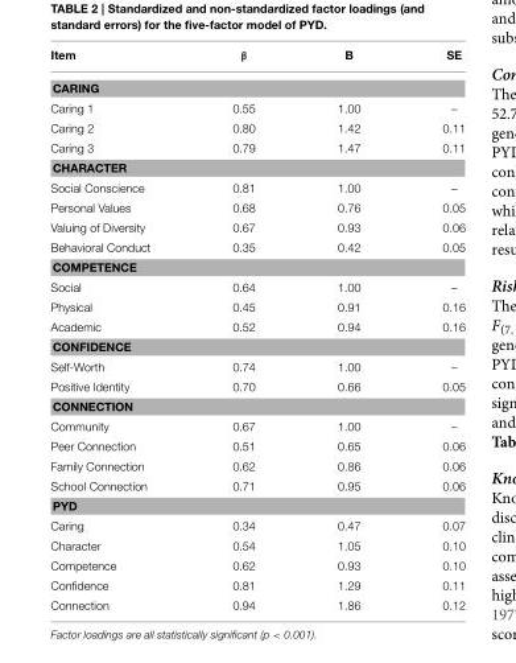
<table><thead><tr><td>Item</td><td>β</td><td>B</td><td>SE</td></tr></thead><tbody><tr><td colspan="4">CARING</td></tr><tr><td>Caring 1</td><td>0.55</td><td>1.00</td><td>–</td></tr><tr><td>Caring 2</td><td>0.80</td><td>1.42</td><td>0.11</td></tr><tr><td>Caring 3</td><td>0.79</td><td>1.47</td><td>0.11</td></tr><tr><td colspan="4">CHARACTER</td></tr><tr><td>Social Conscience</td><td>0.81</td><td>1.00</td><td>–</td></tr><tr><td>Personal Values</td><td>0.68</td><td>0.76</td><td>0.05</td></tr><tr><td>Valuing of Diversity</td><td>0.67</td><td>0.93</td><td>0.06</td></tr><tr><td>Behavioral Conduct</td><td>0.35</td><td>0.42</td><td>0.05</td></tr><tr><td colspan="4">COMPETENCE</td></tr><tr><td>Social</td><td>0.64</td><td>1.00</td><td>–</td></tr><tr><td>Physical</td><td>0.45</td><td>0.91</td><td>0.16</td></tr><tr><td>Academic</td><td>0.52</td><td>0.94</td><td>0.16</td></tr><tr><td colspan="4">CONFIDENCE</td></tr><tr><td>Self-Worth</td><td>0.74</td><td>1.00</td><td>–</td></tr><tr><td>Positive Identity</td><td>0.70</td><td>0.66</td><td>0.05</td></tr><tr><td colspan="4">CONNECTION</td></tr><tr><td>Community</td><td>0.67</td><td>1.00</td><td>–</td></tr><tr><td>Peer Connection</td><td>0.51</td><td>0.65</td><td>0.06</td></tr><tr><td>Family Connection</td><td>0.62</td><td>0.86</td><td>0.06</td></tr><tr><td>School Connection</td><td>0.71</td><td>0.95</td><td>0.06</td></tr><tr><td colspan="4">PYD</td></tr><tr><td>Caring</td><td>0.34</td><td>0.47</td><td>0.07</td></tr><tr><td>Character</td><td>0.54</td><td>1.05</td><td>0.10</td></tr><tr><td>Competence</td><td>0.62</td><td>0.93</td><td>0.10</td></tr><tr><td>Confidence</td><td>0.81</td><td>1.29</td><td>0.11</td></tr><tr><td>Connection</td><td>0.94</td><td>1.86</td><td>0.12</td></tr></tbody></table>